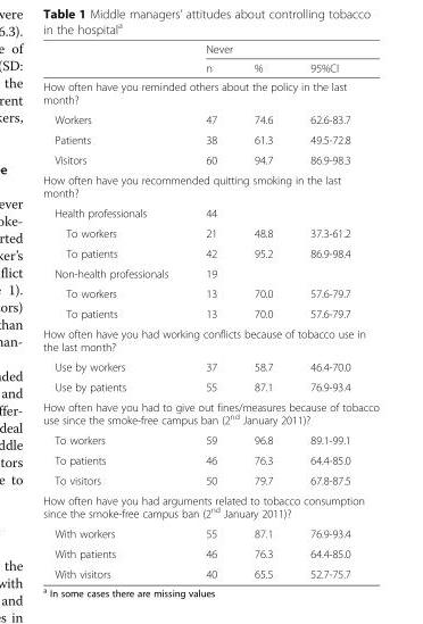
<table><thead><tr><td rowspan="2"></td><td colspan="3">Never</td></tr><tr><td>n</td><td>%</td><td>95%CI</td></tr></thead><tbody><tr><td colspan="4">How often have you reminded others about the policy in the last month?</td></tr><tr><td>Workers</td><td>47</td><td>74.6</td><td>62.6-83.7</td></tr><tr><td>Patients</td><td>38</td><td>61.3</td><td>49.5-72.8</td></tr><tr><td>Visitors</td><td>60</td><td>94.7</td><td>86.9-98.3</td></tr><tr><td colspan="4">How often have you recommended quitting smoking in the last month?</td></tr><tr><td>Health professionals</td><td>44</td><td></td><td></td></tr><tr><td>To workers</td><td>21</td><td>48.8</td><td>37.3-61.2</td></tr><tr><td>To patients</td><td>42</td><td>95.2</td><td>86.9-98.4</td></tr><tr><td>Non-health professionals</td><td>19</td><td></td><td></td></tr><tr><td>To workers</td><td>13</td><td>70.0</td><td>57.6-79.7</td></tr><tr><td>To patients</td><td>13</td><td>70.0</td><td>57.6-79.7</td></tr><tr><td colspan="4">How often have you had working conflicts because of tobacco use in the last month?</td></tr><tr><td>Use by workers</td><td>37</td><td>58.7</td><td>46.4-70.0</td></tr><tr><td>Use by patients</td><td>55</td><td>87.1</td><td>76.9-93.4</td></tr><tr><td colspan="4">How often have you had to give out fines/measures because of tobacco use since the smoke-free campus ban (2<sup>nd</sup> January 2011)?</td></tr><tr><td>To workers</td><td>59</td><td>96.8</td><td>89.1-99.1</td></tr><tr><td>To patients</td><td>46</td><td>76.3</td><td>64.4-85.0</td></tr><tr><td>To visitors</td><td>50</td><td>79.7</td><td>67.8-87.5</td></tr><tr><td colspan="4">How often have you had arguments related to tobacco consumption since the smoke-free campus ban (2<sup>nd</sup> January 2011)?</td></tr><tr><td>With workers</td><td>55</td><td>87.1</td><td>76.9-93.4</td></tr><tr><td>With patients</td><td>46</td><td>76.3</td><td>64.4-85.0</td></tr><tr><td>With visitors</td><td>40</td><td>65.5</td><td>52.7-75.7</td></tr></tbody></table>